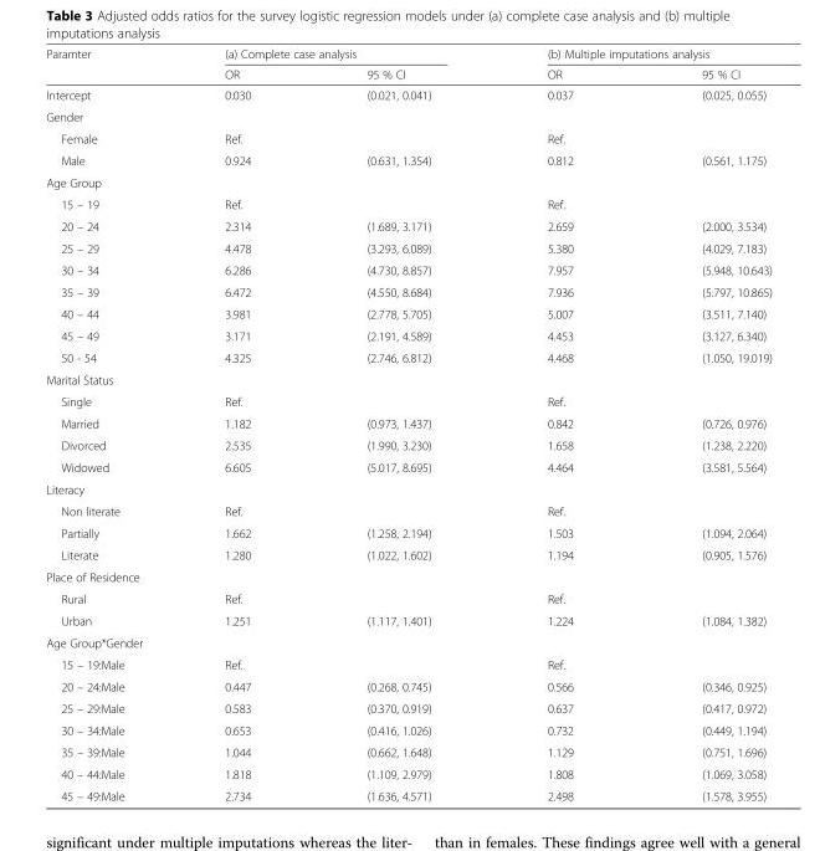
<table><thead><tr><td rowspan="2">Paramter</td><td colspan="2">(a) Complete case analysis</td><td colspan="2">(b) Multiple imputations analysis</td></tr><tr><td>OR</td><td>95 % CI</td><td>OR</td><td>95 % CI</td></tr></thead><tbody><tr><td>Intercept</td><td>0.030</td><td>(0.021, 0.041)</td><td>0.037</td><td>(0.025, 0.055)</td></tr><tr><td colspan="5">Gender</td></tr><tr><td>Female</td><td>Ref.</td><td></td><td>Ref.</td><td></td></tr><tr><td>Male</td><td>0.924</td><td>(0.631, 1.354)</td><td>0.812</td><td>(0.561, 1.175)</td></tr><tr><td colspan="5">Age Group</td></tr><tr><td>15 – 19</td><td>Ref.</td><td></td><td>Ref.</td><td></td></tr><tr><td>20 – 24</td><td>2.314</td><td>(1.689, 3.171)</td><td>2.659</td><td>(2.000, 3.534)</td></tr><tr><td>25 – 29</td><td>4.478</td><td>(3.293, 6.089)</td><td>5.380</td><td>(4.029, 7.183)</td></tr><tr><td>30 – 34</td><td>6.286</td><td>(4.730, 8.857)</td><td>7.957</td><td>(5.948, 10.643)</td></tr><tr><td>35 – 39</td><td>6.472</td><td>(4.550, 8.684)</td><td>7.936</td><td>(5.797, 10.865)</td></tr><tr><td>40 – 44</td><td>3.981</td><td>(2.778, 5.705)</td><td>5.007</td><td>(3.511, 7.140)</td></tr><tr><td>45 – 49</td><td>3.171</td><td>(2.191, 4.589)</td><td>4.453</td><td>(3.127, 6.340)</td></tr><tr><td>50 - 54</td><td>4.325</td><td>(2.746, 6.812)</td><td>4.468</td><td>(1.050, 19.019)</td></tr><tr><td colspan="5">Marital Status</td></tr><tr><td>Single</td><td>Ref.</td><td></td><td>Ref.</td><td></td></tr><tr><td>Married</td><td>1.182</td><td>(0.973, 1.437)</td><td>0.842</td><td>(0.726, 0.976)</td></tr><tr><td>Divorced</td><td>2.535</td><td>(1.990, 3.230)</td><td>1.658</td><td>(1.238, 2.220)</td></tr><tr><td>Widowed</td><td>6.605</td><td>(5.017, 8.695)</td><td>4.464</td><td>(3.581, 5.564)</td></tr><tr><td colspan="5">Literacy</td></tr><tr><td>Non literate</td><td>Ref.</td><td></td><td>Ref.</td><td></td></tr><tr><td>Partially</td><td>1.662</td><td>(1.258, 2.194)</td><td>1.503</td><td>(1.094, 2.064)</td></tr><tr><td>Literate</td><td>1.280</td><td>(1.022, 1.602)</td><td>1.194</td><td>(0.905, 1.576)</td></tr><tr><td colspan="5">Place of Residence</td></tr><tr><td>Rural</td><td>Ref.</td><td></td><td>Ref.</td><td></td></tr><tr><td>Urban</td><td>1.251</td><td>(1.117, 1.401)</td><td>1.224</td><td>(1.084, 1.382)</td></tr><tr><td colspan="5">Age Group*Gender</td></tr><tr><td>15 – 19:Male</td><td>Ref.</td><td></td><td>Ref.</td><td></td></tr><tr><td>20 – 24:Male</td><td>0.447</td><td>(0.268, 0.745)</td><td>0.566</td><td>(0.346, 0.925)</td></tr><tr><td>25 – 29:Male</td><td>0.583</td><td>(0.370, 0.919)</td><td>0.637</td><td>(0.417, 0.972)</td></tr><tr><td>30 – 34:Male</td><td>0.653</td><td>(0.416, 1.026)</td><td>0.732</td><td>(0.449, 1.194)</td></tr><tr><td>35 – 39:Male</td><td>1.044</td><td>(0.662, 1.648)</td><td>1.129</td><td>(0.751, 1.696)</td></tr><tr><td>40 – 44:Male</td><td>1.818</td><td>(1.109, 2.979)</td><td>1.808</td><td>(1.069, 3.058)</td></tr><tr><td>45 – 49:Male</td><td>2.734</td><td>(1.636, 4.571)</td><td>2.498</td><td>(1.578, 3.955)</td></tr></tbody></table>